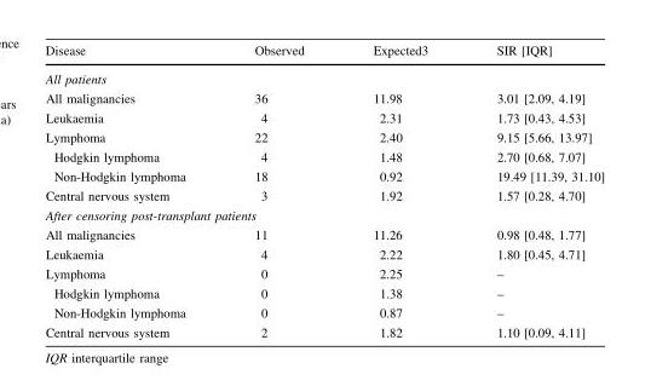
<table><thead><tr><td>Disease</td><td>Observed</td><td>Expected3</td><td>SIR [IQR]</td></tr></thead><tbody><tr><td colspan="4">All patients</td></tr><tr><td>All malignancies</td><td>36</td><td>11.98</td><td>3.01 [2.09, 4.19]</td></tr><tr><td>Leukaemia</td><td>4</td><td>2.31</td><td>1.73 [0.43, 4.53]</td></tr><tr><td>Lymphoma</td><td>22</td><td>2.40</td><td>9.15 [5.66, 13.97]</td></tr><tr><td>Hodgkin lymphoma</td><td>4</td><td>1.48</td><td>2.70 [0.68, 7.07]</td></tr><tr><td>Non-Hodgkin lymphoma</td><td>18</td><td>0.92</td><td>19.49 [11.39, 31.10]</td></tr><tr><td>Central nervous system</td><td>3</td><td>1.92</td><td>1.57 [0.28, 4.70]</td></tr><tr><td colspan="4">After censoring post-transplant patients</td></tr><tr><td>All malignancies</td><td>11</td><td>11.26</td><td>0.98 [0.48, 1.77]</td></tr><tr><td>Leukaemia</td><td>4</td><td>2.22</td><td>1.80 [0.45, 4.71]</td></tr><tr><td>Lymphoma</td><td>0</td><td>2.25</td><td>–</td></tr><tr><td>Hodgkin lymphoma</td><td>0</td><td>1.38</td><td>–</td></tr><tr><td>Non-Hodgkin lymphoma</td><td>0</td><td>0.87</td><td>–</td></tr><tr><td>Central nervous system</td><td>2</td><td>1.82</td><td>1.10 [0.09, 4.11]</td></tr></tbody></table>